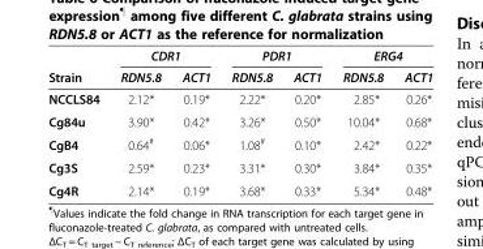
<table><thead><tr><td rowspan="2">Strain</td><td colspan="2">CDR1</td><td colspan="2">PDR1</td><td colspan="2">ERG4</td></tr><tr><td>RDN5.8</td><td>ACT1</td><td>RDN5.8</td><td>ACT1</td><td>RDN5.8</td><td>ACT1</td></tr></thead><tbody><tr><td>NCCLS84</td><td>2.12*</td><td>0.19*</td><td>2.22*</td><td>0.20*</td><td>2.85*</td><td>0.26*</td></tr><tr><td>Cg84u</td><td>3.90*</td><td>0.42*</td><td>3.26*</td><td>0.50*</td><td>10.04*</td><td>0.68*</td></tr><tr><td>CgB4</td><td>0.64<sup>#</sup></td><td>0.06*</td><td>1.08<sup>#</sup></td><td>0.10*</td><td>2.42*</td><td>0.22*</td></tr><tr><td>Cg3S</td><td>2.59*</td><td>0.23*</td><td>3.31*</td><td>0.30*</td><td>3.84*</td><td>0.35*</td></tr><tr><td>Cg4R</td><td>2.14*</td><td>0.19*</td><td>3.68*</td><td>0.33*</td><td>5.34*</td><td>0.48*</td></tr></tbody></table>